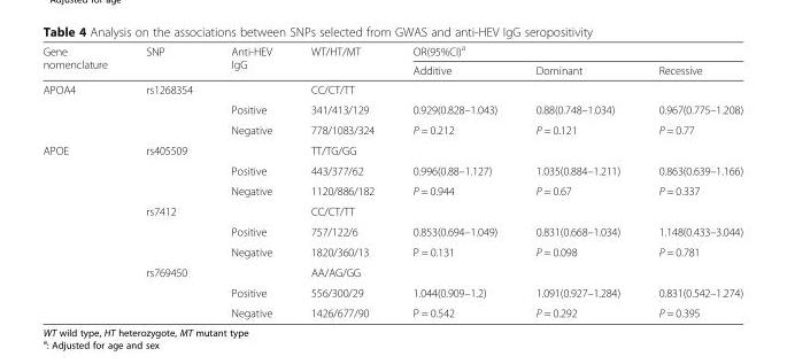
<table><thead><tr><td rowspan="2">Gene nomenclature</td><td rowspan="2">SNP</td><td rowspan="2">Anti-HEV IgG</td><td rowspan="2">WT/HT/MT</td><td colspan="3">OR(95%CI)<sup>a</sup></td></tr><tr><td>Additive</td><td>Dominant</td><td>Recessive</td></tr></thead><tbody><tr><td rowspan="3">APOA4</td><td rowspan="3">rs1268354</td><td></td><td>CC/CT/TT</td><td></td><td></td><td></td></tr><tr><td>Positive</td><td>341/413/129</td><td>0.929(0.828–1.043)</td><td>0.88(0.748–1.034)</td><td>0.967(0.775–1.208)</td></tr><tr><td>Negative</td><td>778/1083/324</td><td>P = 0.212</td><td>P = 0.121</td><td>P = 0.77</td></tr><tr><td rowspan="9">APOE</td><td rowspan="3">rs405509</td><td></td><td>TT/TG/GG</td><td></td><td></td><td></td></tr><tr><td>Positive</td><td>443/377/62</td><td>0.996(0.88–1.127)</td><td>1.035(0.884–1.211)</td><td>0.863(0.639–1.166)</td></tr><tr><td>Negative</td><td>1120/886/182</td><td>P = 0.944</td><td>P = 0.67</td><td>P = 0.337</td></tr><tr><td rowspan="3">rs7412</td><td></td><td>CC/CT/TT</td><td></td><td></td><td></td></tr><tr><td>Positive</td><td>757/122/6</td><td>0.853(0.694–1.049)</td><td>0.831(0.668–1.034)</td><td>1.148(0.433–3.044)</td></tr><tr><td>Negative</td><td>1820/360/13</td><td>P = 0.131</td><td>P = 0.098</td><td>P = 0.781</td></tr><tr><td rowspan="3">rs769450</td><td></td><td>AA/AG/GG</td><td></td><td></td><td></td></tr><tr><td>Positive</td><td>556/300/29</td><td>1.044(0.909–1.2)</td><td>1.091(0.927–1.284)</td><td>0.831(0.542–1.274)</td></tr><tr><td>Negative</td><td>1426/677/90</td><td>P = 0.542</td><td>P = 0.292</td><td>P = 0.395</td></tr></tbody></table>